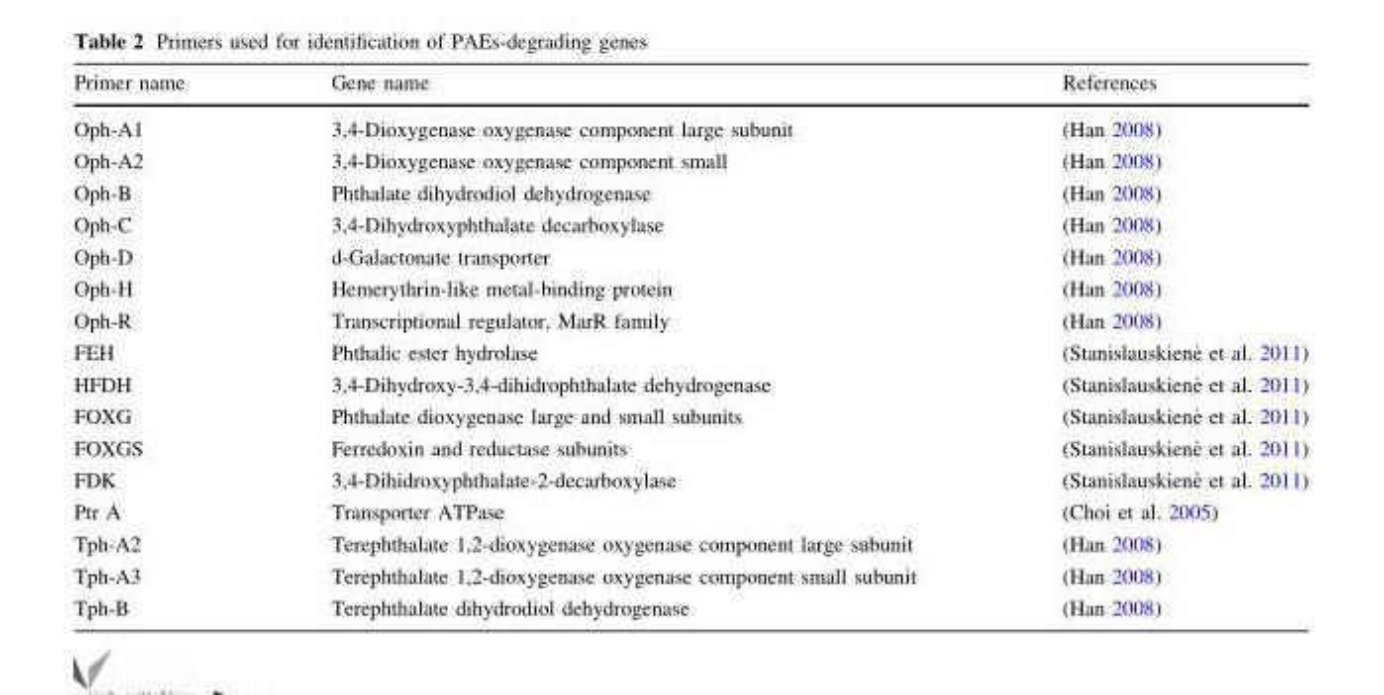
<table><thead><tr><td>Primer name</td><td>Gene name</td><td>References</td></tr></thead><tbody><tr><td>Oph-A1</td><td>3,4-Dioxygenase oxygenase component large subunit</td><td>(Han 2008)</td></tr><tr><td>Oph-A2</td><td>3,4-Dioxygenase oxygenase component small</td><td>(Han 2008)</td></tr><tr><td>Oph-B</td><td>Phthalate dihydrodiol dehydrogenase</td><td>(Han 2008)</td></tr><tr><td>Oph-C</td><td>3,4-Dihydroxyphthalate decarboxylase</td><td>(Han 2008)</td></tr><tr><td>Oph-D</td><td>d-Galactonate transporter</td><td>(Han 2008)</td></tr><tr><td>Oph-H</td><td>Hemerythrin-like metal-binding protein</td><td>(Han 2008)</td></tr><tr><td>Oph-R</td><td>Transcriptional regulator, MarR family</td><td>(Han 2008)</td></tr><tr><td>FEH</td><td>Phthalic ester hydrolase</td><td>(Stanislauskien_e et al. 2011)</td></tr><tr><td>HFDH</td><td>3,4-Dihydroxy-3,4-dihidrophthalate dehydrogenase</td><td>(Stanislauskien_e et al. 2011)</td></tr><tr><td>FOXG</td><td>Phthalate dioxygenase large and small subunits</td><td>(Stanislauskien_e et al. 2011)</td></tr><tr><td>FOXGS</td><td>Ferredoxin and reductase subunits</td><td>(Stanislauskien_e et al. 2011)</td></tr><tr><td>FDK</td><td>3,4-Dihidroxyphthalate-2-decarboxylase</td><td>(Stanislauskien_e et al. 2011)</td></tr><tr><td>Ptr A</td><td>Transporter ATPase</td><td>(Choi et al. 2005)</td></tr><tr><td>Tph-A2</td><td>Terephthalate 1,2-dioxygenase oxygenase component large subunit</td><td>(Han 2008)</td></tr><tr><td>Tph-A3</td><td>Terephthalate 1,2-dioxygenase oxygenase component small subunit</td><td>(Han 2008)</td></tr><tr><td>Tph-B</td><td>Terephthalate dihydrodiol dehydrogenase</td><td>(Han 2008)</td></tr></tbody></table>